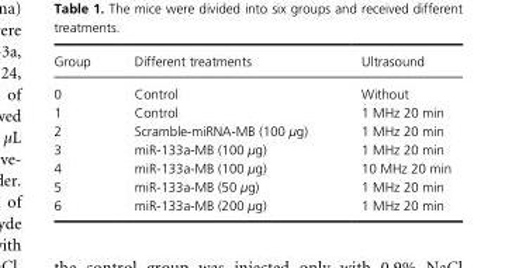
<table><thead><tr><td>Group</td><td>Different treatments</td><td>Ultrasound</td></tr></thead><tbody><tr><td>0</td><td>Control</td><td>Without</td></tr><tr><td>1</td><td>Control</td><td>1 MHz 20 min</td></tr><tr><td>2</td><td>Scramble- miRNA- MB (100 μg)</td><td>1 MHz 20 min</td></tr><tr><td>3</td><td>miR- 133a- MB (100 μg)</td><td>1 MHz 20 min</td></tr><tr><td>4</td><td>miR- 133a- MB (100 μg)</td><td>10 MHz 20 min</td></tr><tr><td>5</td><td>miR- 133a- MB (50 μg)</td><td>1 MHz 20 min</td></tr><tr><td>6</td><td>miR- 133a- MB (200 μg)</td><td>1 MHz 20 min</td></tr></tbody></table>